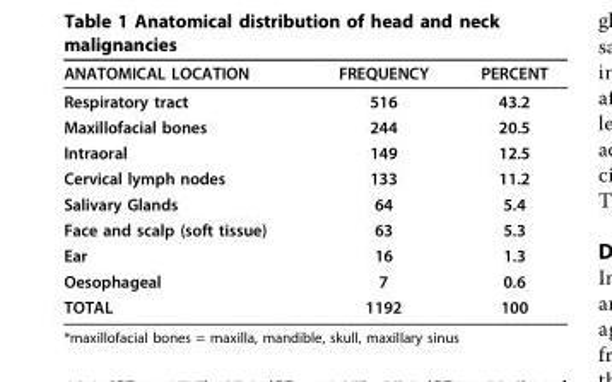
<table><thead><tr><td>ANATOMICAL LOCATION</td><td>FREQUENCY</td><td>PERCENT</td></tr></thead><tbody><tr><td>Respiratory tract</td><td>516</td><td>43.2</td></tr><tr><td>Maxillofacial bones</td><td>244</td><td>20.5</td></tr><tr><td>Intraoral</td><td>149</td><td>12.5</td></tr><tr><td>Cervical lymph nodes</td><td>133</td><td>11.2</td></tr><tr><td>Salivary Glands</td><td>64</td><td>5.4</td></tr><tr><td>Face and scalp (soft tissue)</td><td>63</td><td>5.3</td></tr><tr><td>Ear</td><td>16</td><td>1.3</td></tr><tr><td>Oesophageal</td><td>7</td><td>0.6</td></tr><tr><td>TOTAL</td><td>1192</td><td>100</td></tr></tbody></table>